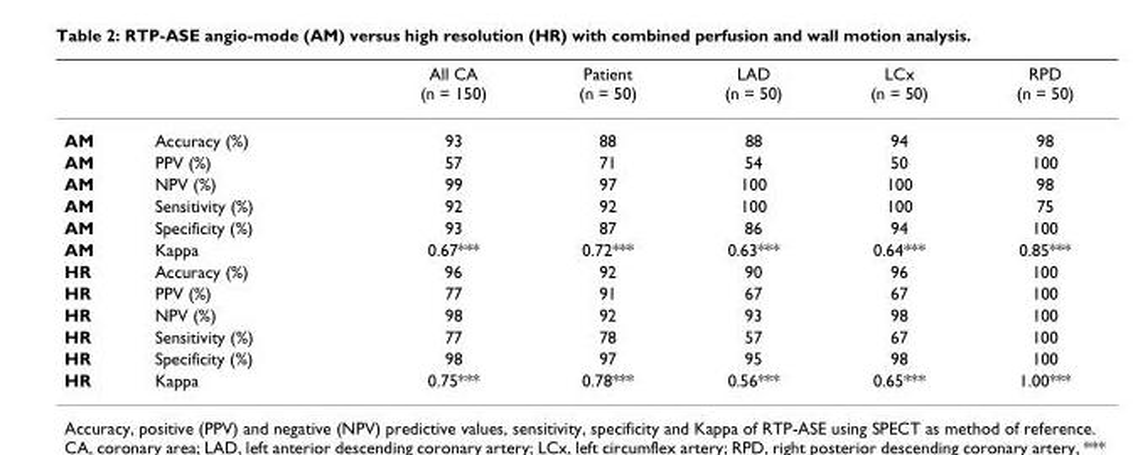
<table><thead><tr><td></td><td></td><td>All CA (n = 150)</td><td>Patient (n = 50)</td><td>LAD (n = 50)</td><td>LCx (n = 50)</td><td>RPD (n = 50)</td></tr></thead><tbody><tr><td>AM</td><td>Accuracy (%)</td><td>93</td><td>88</td><td>88</td><td>94</td><td>98</td></tr><tr><td>AM</td><td>PPV (%)</td><td>57</td><td>71</td><td>54</td><td>50</td><td>100</td></tr><tr><td>AM</td><td>NPV (%)</td><td>99</td><td>97</td><td>100</td><td>100</td><td>98</td></tr><tr><td>AM</td><td>Sensitivity (%)</td><td>92</td><td>92</td><td>100</td><td>100</td><td>75</td></tr><tr><td>AM</td><td>Specificity (%)</td><td>93</td><td>87</td><td>86</td><td>94</td><td>100</td></tr><tr><td>AM</td><td>Kappa</td><td>0.67***</td><td>0.72***</td><td>0.63***</td><td>0.64***</td><td>0.85***</td></tr><tr><td>HR</td><td>Accuracy (%)</td><td>96</td><td>92</td><td>90</td><td>96</td><td>100</td></tr><tr><td>HR</td><td>PPV (%)</td><td>77</td><td>91</td><td>67</td><td>67</td><td>100</td></tr><tr><td>HR</td><td>NPV (%)</td><td>98</td><td>92</td><td>93</td><td>98</td><td>100</td></tr><tr><td>HR</td><td>Sensitivity (%)</td><td>77</td><td>78</td><td>57</td><td>67</td><td>100</td></tr><tr><td>HR</td><td>Specificity (%)</td><td>98</td><td>97</td><td>95</td><td>98</td><td>100</td></tr><tr><td>HR</td><td>Kappa</td><td>0.75***</td><td>0.78***</td><td>0.56***</td><td>0.65***</td><td>1.00***</td></tr></tbody></table>